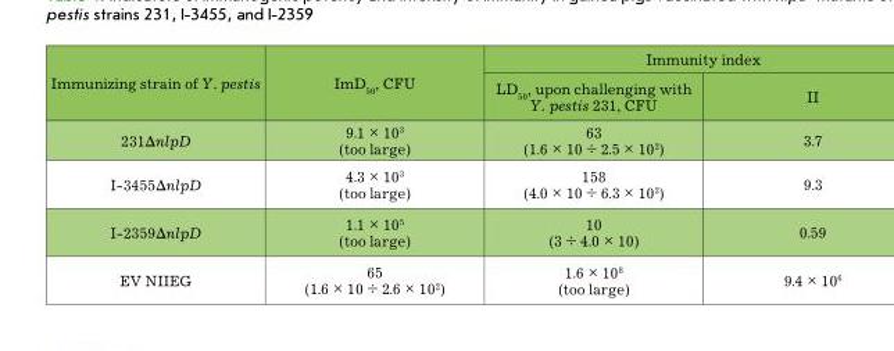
<table><thead><tr><td rowspan="2">Immunizing strain of Y. pestis</td><td rowspan="2">ImD<sub>50</sub>, CFU</td><td colspan="2">Immunity index</td></tr><tr><td>LD50, upon challenging with Y. pestis 231, CFU</td><td>II</td></tr></thead><tbody><tr><td>231∆nlpD</td><td>9.1 × 10<sup>3</sup> (too large)</td><td>63 (1.6 × 10 ÷ 2.5 × 10<sup>2</sup>)</td><td>3.7</td></tr><tr><td>I-3455∆nlpD</td><td>4.3 × 10<sup>3</sup> (too large)</td><td>158 (4.0 × 10 ÷ 6.3 × 10<sup>2</sup>)</td><td>9.3</td></tr><tr><td>I-2359∆nlpD</td><td>1.1 × 10<sup>5</sup> (too large)</td><td>10 (3 ÷ 4.0 × 10)</td><td>0.59</td></tr><tr><td>EV NIIEG</td><td>65 (1.6 × 10 ÷ 2.6 × 10<sup>2</sup>)</td><td>1.6 × 10<sup>8</sup> (too large)</td><td>9.4 × 10<sup>6</sup></td></tr></tbody></table>